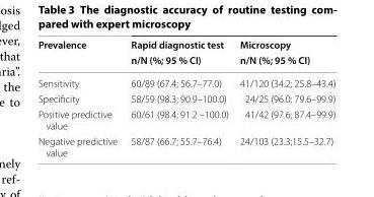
<table><thead><tr><td rowspan="2">Prevalence</td><td rowspan="2">Rapid diagnostic test n/N (%; 95 % CI)</td><td rowspan="2">Microscopy n/N (%; 95 % CI)</td></tr><tr></tr></thead><tbody><tr><td>Sensitivity</td><td>60/89 (67.4; 56.7–77.0)</td><td>41/120 (34.2; 25.8–43.4)</td></tr><tr><td>Specificity</td><td>58/59 (98.3; 90.9–100.0)</td><td>24/25 (96.0; 79.6–99.9)</td></tr><tr><td>Positive predictive value</td><td>60/61 (98.4; 91.2 –100.0)</td><td>41/42 (97.6; 87.4–99.9)</td></tr><tr><td>Negative predictive value</td><td>58/87 (66.7; 55.7–76.4)</td><td>24/103 (23.3;15.5–32.7)</td></tr></tbody></table>